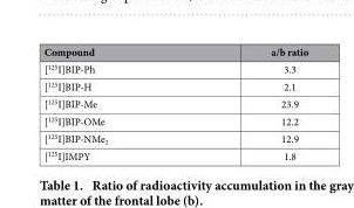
<table><thead><tr><td>Compound</td><td>a/b ratio</td></tr></thead><tbody><tr><td>[<sup>125</sup>I]BIP-Ph</td><td>3.3</td></tr><tr><td>[<sup>125</sup>I]BIP-H</td><td>2.1</td></tr><tr><td>[<sup>125</sup>I]BIP-Me</td><td>23.9</td></tr><tr><td>[<sup>125</sup>I]BIP-OMe</td><td>12.2</td></tr><tr><td>[<sup>125</sup>I]BIP-NMe<sub>2</sub></td><td>12.9</td></tr><tr><td>[<sup>125</sup>I]IMPY</td><td>1.8</td></tr></tbody></table>